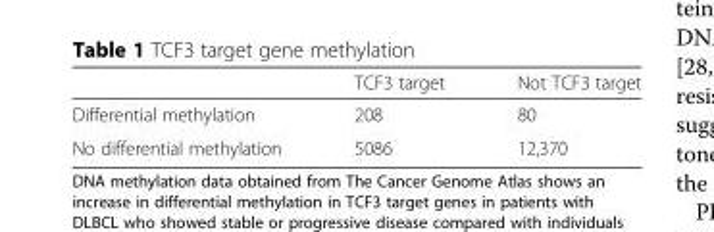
<table><thead><tr><td></td><td>TCF3 target</td><td>Not TCF3 target</td></tr></thead><tbody><tr><td>Differential methylation</td><td>208</td><td>80</td></tr><tr><td>No differential methylation</td><td>5086</td><td>12,370</td></tr></tbody></table>